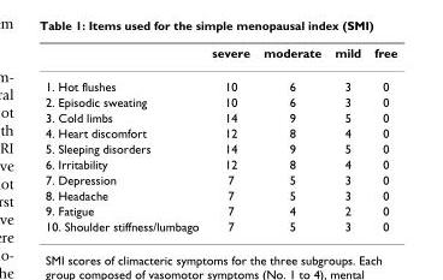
<table><thead><tr><td></td><td>severe</td><td>moderate</td><td>mild</td><td>free</td></tr></thead><tbody><tr><td>1. Hot flushes</td><td>10</td><td>6</td><td>3</td><td>0</td></tr><tr><td>2. Episodic sweating</td><td>10</td><td>6</td><td>3</td><td>0</td></tr><tr><td>3. Cold limbs</td><td>14</td><td>9</td><td>5</td><td>0</td></tr><tr><td>4. Heart discomfort</td><td>12</td><td>8</td><td>4</td><td>0</td></tr><tr><td>5. Sleeping disorders</td><td>14</td><td>9</td><td>5</td><td>0</td></tr><tr><td>6. Irritability</td><td>12</td><td>8</td><td>4</td><td>0</td></tr><tr><td>7. Depression</td><td>7</td><td>5</td><td>3</td><td>0</td></tr><tr><td>8. Headache</td><td>7</td><td>5</td><td>3</td><td>0</td></tr><tr><td>9. Fatigue</td><td>7</td><td>4</td><td>2</td><td>0</td></tr><tr><td>10. Shoulder stiffness/lumbago</td><td>7</td><td>5</td><td>3</td><td>0</td></tr></tbody></table>